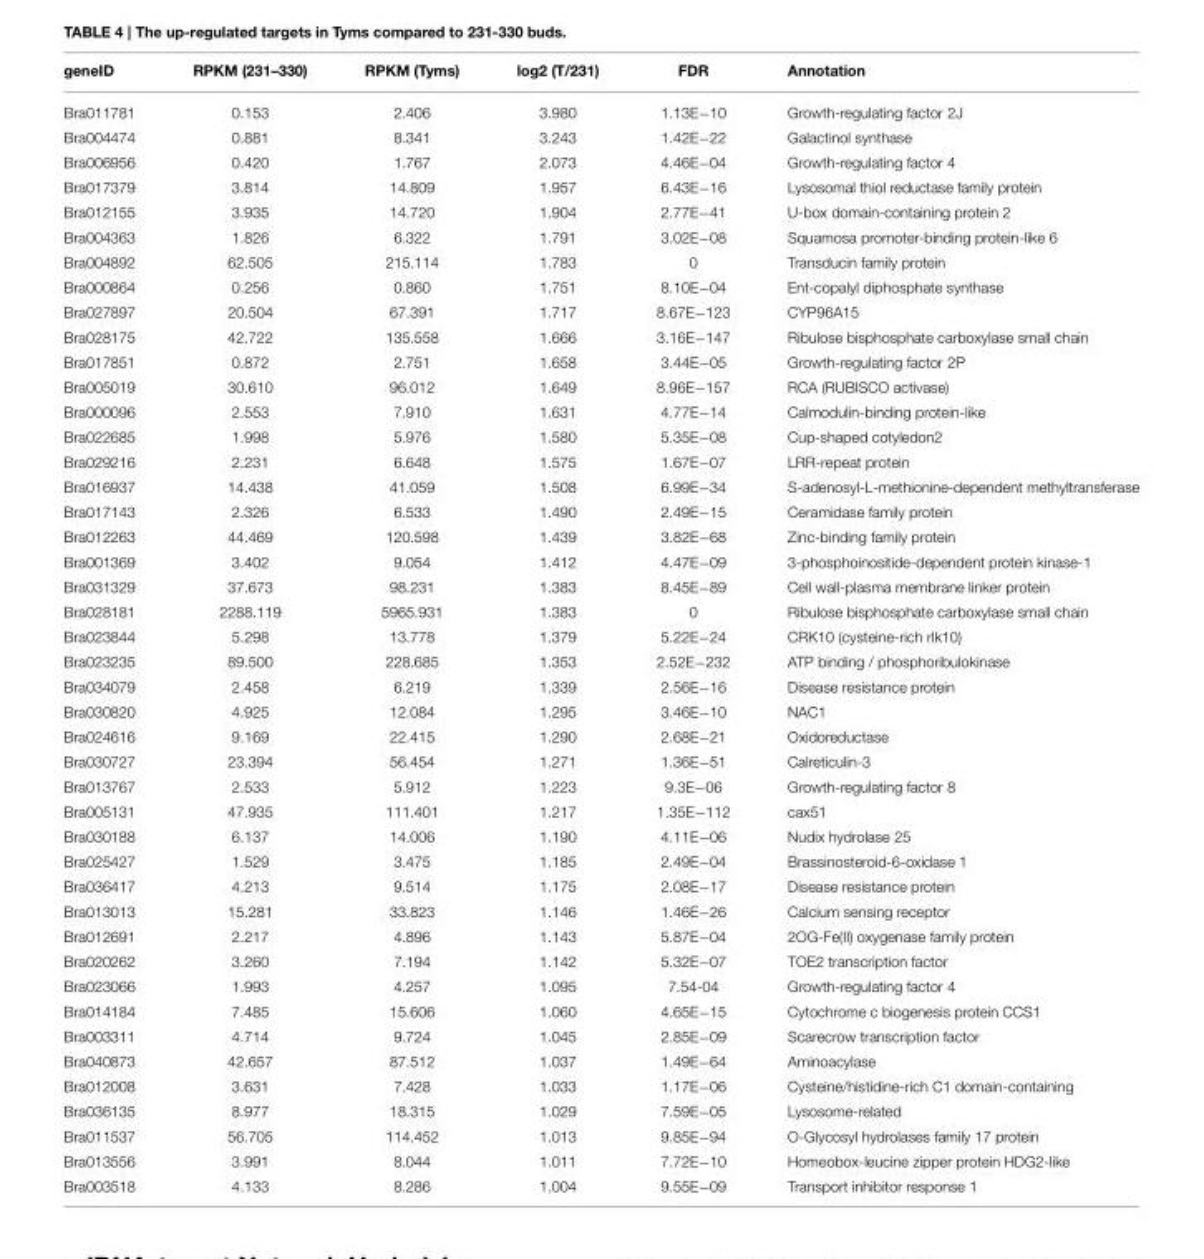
<table><thead><tr><td>geneID</td><td>RPKM (231–330)</td><td>RPKM (Tyms)</td><td>log2 (T/231)</td><td>FDR</td><td>Annotation</td></tr></thead><tbody><tr><td>Bra011781</td><td>0.153</td><td>2.406</td><td>3.980</td><td>1.13E−10</td><td>Growth-regulating factor 2J</td></tr><tr><td>Bra004474</td><td>0.881</td><td>8.341</td><td>3.243</td><td>1.42E−22</td><td>Galactinol synthase</td></tr><tr><td>Bra006956</td><td>0.420</td><td>1.767</td><td>2.073</td><td>4.46E−04</td><td>Growth-regulating factor 4</td></tr><tr><td>Bra017379</td><td>3.814</td><td>14.809</td><td>1.957</td><td>6.43E−16</td><td>Lysosomal thiol reductase family protein</td></tr><tr><td>Bra012155</td><td>3.935</td><td>14.720</td><td>1.904</td><td>2.77E−41</td><td>U-box domain-containing protein 2</td></tr><tr><td>Bra004363</td><td>1.826</td><td>6.322</td><td>1.791</td><td>3.02E−08</td><td>Squamosa promoter-binding protein-like 6</td></tr><tr><td>Bra004892</td><td>62.505</td><td>215.114</td><td>1.783</td><td>0</td><td>Transducin family protein</td></tr><tr><td>Bra000864</td><td>0.256</td><td>0.860</td><td>1.751</td><td>8.10E−04</td><td>Ent-copalyl diphosphate synthase</td></tr><tr><td>Bra027897</td><td>20.504</td><td>67.391</td><td>1.717</td><td>8.67E−123</td><td>CYP96A15</td></tr><tr><td>Bra028175</td><td>42.722</td><td>135.558</td><td>1.666</td><td>3.16E−147</td><td>Ribulose bisphosphate carboxylase small chain</td></tr><tr><td>Bra017851</td><td>0.872</td><td>2.751</td><td>1.658</td><td>3.44E−05</td><td>Growth-regulating factor 2P</td></tr><tr><td>Bra005019</td><td>30.610</td><td>96.012</td><td>1.649</td><td>8.96E−157</td><td>RCA (RUBISCO activase)</td></tr><tr><td>Bra000096</td><td>2.553</td><td>7.910</td><td>1.631</td><td>4.77E−14</td><td>Calmodulin-binding protein-like</td></tr><tr><td>Bra022685</td><td>1.998</td><td>5.976</td><td>1.580</td><td>5.35E−08</td><td>Cup-shaped cotyledon2</td></tr><tr><td>Bra029216</td><td>2.231</td><td>6.648</td><td>1.575</td><td>1.67E−07</td><td>LRR-repeat protein</td></tr><tr><td>Bra016937</td><td>14.438</td><td>41.059</td><td>1.508</td><td>6.99E−34</td><td>S-adenosyl-L-methionine-dependent methyltransferase</td></tr><tr><td>Bra017143</td><td>2.326</td><td>6.533</td><td>1.490</td><td>2.49E−15</td><td>Ceramidase family protein</td></tr><tr><td>Bra012263</td><td>44.469</td><td>120.598</td><td>1.439</td><td>3.82E−68</td><td>Zinc-binding family protein</td></tr><tr><td>Bra001369</td><td>3.402</td><td>9.054</td><td>1.412</td><td>4.47E−09</td><td>3-phosphoinositide-dependent protein kinase-1</td></tr><tr><td>Bra031329</td><td>37.673</td><td>98.231</td><td>1.383</td><td>8.45E−89</td><td>Cell wall-plasma membrane linker protein</td></tr><tr><td>Bra028181</td><td>2288.119</td><td>5965.931</td><td>1.383</td><td>0</td><td>Ribulose bisphosphate carboxylase small chain</td></tr><tr><td>Bra023844</td><td>5.298</td><td>13.778</td><td>1.379</td><td>5.22E−24</td><td>CRK10 (cysteine-rich rlk10)</td></tr><tr><td>Bra023235</td><td>89.500</td><td>228.685</td><td>1.353</td><td>2.52E−232</td><td>ATP binding / phosphoribulokinase</td></tr><tr><td>Bra034079</td><td>2.458</td><td>6.219</td><td>1.339</td><td>2.56E−16</td><td>Disease resistance protein</td></tr><tr><td>Bra030820</td><td>4.925</td><td>12.084</td><td>1.295</td><td>3.46E−10</td><td>NAC1</td></tr><tr><td>Bra024616</td><td>9.169</td><td>22.415</td><td>1.290</td><td>2.68E−21</td><td>Oxidoreductase</td></tr><tr><td>Bra030727</td><td>23.394</td><td>56.454</td><td>1.271</td><td>1.36E−51</td><td>Calreticulin-3</td></tr><tr><td>Bra013767</td><td>2.533</td><td>5.912</td><td>1.223</td><td>9.3E−06</td><td>Growth-regulating factor 8</td></tr><tr><td>Bra005131</td><td>47.935</td><td>111.401</td><td>1.217</td><td>1.35E−112</td><td>cax51</td></tr><tr><td>Bra030188</td><td>6.137</td><td>14.006</td><td>1.190</td><td>4.11E−06</td><td>Nudix hydrolase 25</td></tr><tr><td>Bra025427</td><td>1.529</td><td>3.475</td><td>1.185</td><td>2.49E−04</td><td>Brassinosteroid-6-oxidase 1</td></tr><tr><td>Bra036417</td><td>4.213</td><td>9.514</td><td>1.175</td><td>2.08E−17</td><td>Disease resistance protein</td></tr><tr><td>Bra013013</td><td>15.281</td><td>33.823</td><td>1.146</td><td>1.46E−26</td><td>Calcium sensing receptor</td></tr><tr><td>Bra012691</td><td>2.217</td><td>4.896</td><td>1.143</td><td>5.87E−04</td><td>2OG-Fe(II) oxygenase family protein</td></tr><tr><td>Bra020262</td><td>3.260</td><td>7.194</td><td>1.142</td><td>5.32E−07</td><td>TOE2 transcription factor</td></tr><tr><td>Bra023066</td><td>1.993</td><td>4.257</td><td>1.095</td><td>7.54-04</td><td>Growth-regulating factor 4</td></tr><tr><td>Bra014184</td><td>7.485</td><td>15.606</td><td>1.060</td><td>4.65E−15</td><td>Cytochrome c biogenesis protein CCS1</td></tr><tr><td>Bra003311</td><td>4.714</td><td>9.724</td><td>1.045</td><td>2.85E−09</td><td>Scarecrow transcription factor</td></tr><tr><td>Bra040873</td><td>42.657</td><td>87.512</td><td>1.037</td><td>1.49E−64</td><td>Aminoacylase</td></tr><tr><td>Bra012008</td><td>3.631</td><td>7.428</td><td>1.033</td><td>1.17E−06</td><td>Cysteine/histidine-rich C1 domain-containing</td></tr><tr><td>Bra036135</td><td>8.977</td><td>18.315</td><td>1.029</td><td>7.59E−05</td><td>Lysosome-related</td></tr><tr><td>Bra011537</td><td>56.705</td><td>114.452</td><td>1.013</td><td>9.85E−94</td><td>O-Glycosyl hydrolases family 17 protein</td></tr><tr><td>Bra013556</td><td>3.991</td><td>8.044</td><td>1.011</td><td>7.72E−10</td><td>Homeobox-leucine zipper protein HDG2-like</td></tr><tr><td>Bra003518</td><td>4.133</td><td>8.286</td><td>1.004</td><td>9.55E−09</td><td>Transport inhibitor response 1</td></tr></tbody></table>